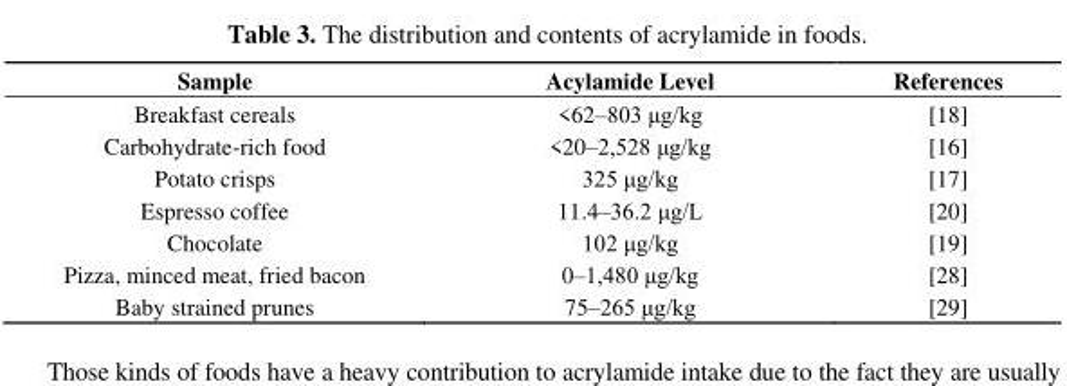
<table><thead><tr><td>Sample</td><td>Acylamide Level</td><td>References</td></tr></thead><tbody><tr><td>Breakfast cereals</td><td>&lt;62–803 μg/kg</td><td>[18]</td></tr><tr><td>Carbohydrate-rich food</td><td>&lt;20–2,528 μg/kg</td><td>[16]</td></tr><tr><td>Potato crisps</td><td>325 μg/kg</td><td>[17]</td></tr><tr><td>Espresso coffee</td><td>11.4–36.2 μg/L</td><td>[20]</td></tr><tr><td>Chocolate</td><td>102 μg/kg</td><td>[19]</td></tr><tr><td>Pizza, minced meat, fried bacon</td><td>0–1,480 μg/kg</td><td>[28]</td></tr><tr><td>Baby strained prunes</td><td>75–265 μg/kg</td><td>[29]</td></tr></tbody></table>